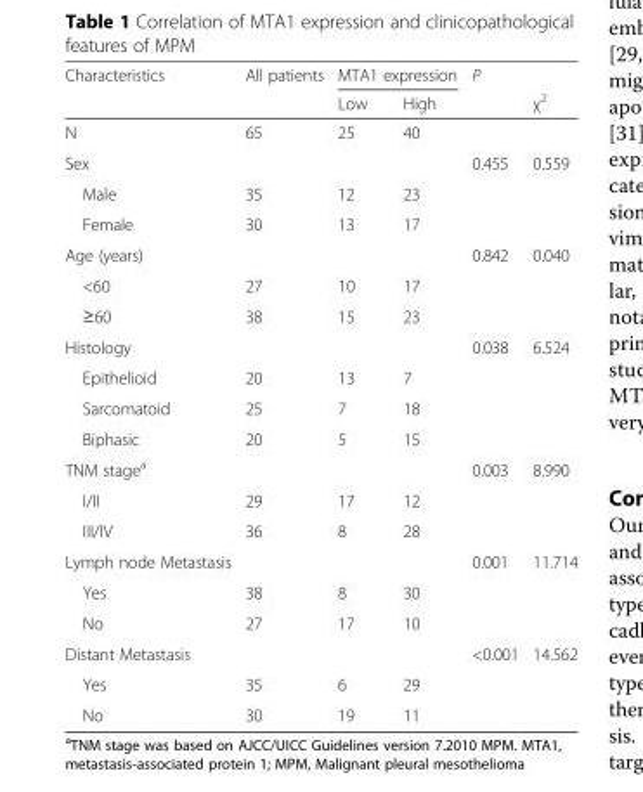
<table><thead><tr><td rowspan="2">Characteristics</td><td rowspan="2">All patients</td><td colspan="2">MTA1 expression</td><td rowspan="2">P</td><td rowspan="2">χ<sup>2</sup></td></tr><tr><td>Low</td><td>High</td></tr></thead><tbody><tr><td>N</td><td>65</td><td>25</td><td>40</td><td></td><td></td></tr><tr><td>Sex</td><td></td><td></td><td></td><td>0.455</td><td>0.559</td></tr><tr><td>Male</td><td>35</td><td>12</td><td>23</td><td></td><td></td></tr><tr><td>Female</td><td>30</td><td>13</td><td>17</td><td></td><td></td></tr><tr><td>Age (years)</td><td></td><td></td><td></td><td>0.842</td><td>0.040</td></tr><tr><td>&lt;60</td><td>27</td><td>10</td><td>17</td><td></td><td></td></tr><tr><td>≥60</td><td>38</td><td>15</td><td>23</td><td></td><td></td></tr><tr><td>Histology</td><td></td><td></td><td></td><td>0.038</td><td>6.524</td></tr><tr><td>Epithelioid</td><td>20</td><td>13</td><td>7</td><td></td><td></td></tr><tr><td>Sarcomatoid</td><td>25</td><td>7</td><td>18</td><td></td><td></td></tr><tr><td>Biphasic</td><td>20</td><td>5</td><td>15</td><td></td><td></td></tr><tr><td>TNM stage<sup>a</sup></td><td></td><td></td><td></td><td>0.003</td><td>8.990</td></tr><tr><td>I/II</td><td>29</td><td>17</td><td>12</td><td></td><td></td></tr><tr><td>III/IV</td><td>36</td><td>8</td><td>28</td><td></td><td></td></tr><tr><td>Lymph node Metastasis</td><td></td><td></td><td></td><td>0.001</td><td>11.714</td></tr><tr><td>Yes</td><td>38</td><td>8</td><td>30</td><td></td><td></td></tr><tr><td>No</td><td>27</td><td>17</td><td>10</td><td></td><td></td></tr><tr><td>Distant Metastasis</td><td></td><td></td><td></td><td>&lt;0.001</td><td>14.562</td></tr><tr><td>Yes</td><td>35</td><td>6</td><td>29</td><td></td><td></td></tr><tr><td>No</td><td>30</td><td>19</td><td>11</td><td></td><td></td></tr></tbody></table>